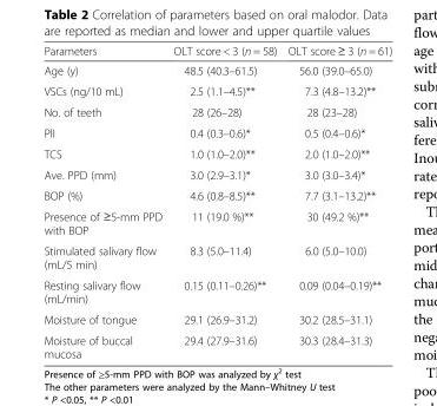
<table><thead><tr><td>Parameters</td><td>OLT score &lt; 3 (n = 58)</td><td>OLT score ≥ 3 (n = 61)</td></tr></thead><tbody><tr><td>Age (y)</td><td>48.5 (40.3–61.5)</td><td>56.0 (39.0–65.0)</td></tr><tr><td>VSCs (ng/10 mL)</td><td>2.5 (1.1–4.5)**</td><td>7.3 (4.8–13.2)**</td></tr><tr><td>No. of teeth</td><td>28 (26–28)</td><td>28 (23–28)</td></tr><tr><td>PlI</td><td>0.4 (0.3–0.6)*</td><td>0.5 (0.4–0.6)*</td></tr><tr><td>TCS</td><td>1.0 (1.0–2.0)**</td><td>2.0 (1.0–2.0)**</td></tr><tr><td>Ave. PPD (mm)</td><td>3.0 (2.9–3.1)*</td><td>3.0 (3.0–3.4)*</td></tr><tr><td>BOP (%)</td><td>4.6 (0.8–8.5)**</td><td>7.7 (3.1–13.2)**</td></tr><tr><td>Presence of ≥5-mm PPD with BOP</td><td>11 (19.0 %)**</td><td>30 (49.2 %)**</td></tr><tr><td>Stimulated salivary flow (mL/5 min)</td><td>8.3 (5.0–11.4)</td><td>6.0 (5.0–10.0)</td></tr><tr><td>Resting salivary flow (mL/min)</td><td>0.15 (0.11–0.26)**</td><td>0.09 (0.04–0.19)**</td></tr><tr><td>Moisture of tongue</td><td>29.1 (26.9–31.2)</td><td>30.2 (28.5–31.1)</td></tr><tr><td>Moisture of buccal mucosa</td><td>29.4 (27.9–31.6)</td><td>30.3 (28.4–31.3)</td></tr></tbody></table>